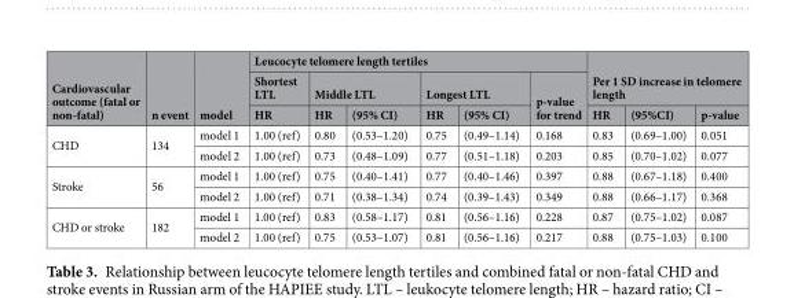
<table><thead><tr><td rowspan="3">Cardiovascular outcome (fatal or non-fatal)</td><td rowspan="3">n event</td><td rowspan="3">model</td><td colspan="6">Leucocyte telomere length tertiles</td><td rowspan="2" colspan="3">Per 1 SD increase in telomere length</td></tr><tr><td rowspan="2">Shortest LTL HR</td><td colspan="2">Middle LTL</td><td colspan="2">Longest LTL</td><td rowspan="2">p-value for trend</td></tr><tr><td>HR</td><td>(95% CI)</td><td>HR</td><td>(95% CI)</td><td>HR</td><td>(95%CI)</td><td>p-value</td></tr></thead><tbody><tr><td rowspan="2">CHD</td><td rowspan="2">134</td><td>model 1</td><td>1.00 (ref)</td><td>0.80</td><td>(0.53–1.20)</td><td>0.75</td><td>(0.49–1.14)</td><td>0.168</td><td>0.83</td><td>(0.69–1.00)</td><td>0.051</td></tr><tr><td>model 2</td><td>1.00 (ref)</td><td>0.73</td><td>(0.48–1.09)</td><td>0.77</td><td>(0.51–1.18)</td><td>0.203</td><td>0.85</td><td>(0.70–1.02)</td><td>0.077</td></tr><tr><td rowspan="2">Stroke</td><td rowspan="2">56</td><td>model 1</td><td>1.00 (ref)</td><td>0.75</td><td>(0.40–1.41)</td><td>0.77</td><td>(0.40–1.46)</td><td>0.397</td><td>0.88</td><td>(0.67–1.18)</td><td>0.400</td></tr><tr><td>model 2</td><td>1.00 (ref)</td><td>0.71</td><td>(0.38–1.34)</td><td>0.74</td><td>(0.39–1.43)</td><td>0.349</td><td>0.88</td><td>(0.66–1.17)</td><td>0.368</td></tr><tr><td rowspan="2">CHD or stroke</td><td rowspan="2">182</td><td>model 1</td><td>1.00 (ref)</td><td>0.83</td><td>(0.58–1.17)</td><td>0.81</td><td>(0.56–1.16)</td><td>0.228</td><td>0.87</td><td>(0.75–1.02)</td><td>0.087</td></tr><tr><td>model 2</td><td>1.00 (ref)</td><td>0.75</td><td>(0.53–1.07)</td><td>0.81</td><td>(0.56–1.16)</td><td>0.217</td><td>0.88</td><td>(0.75–1.03)</td><td>0.100</td></tr></tbody></table>